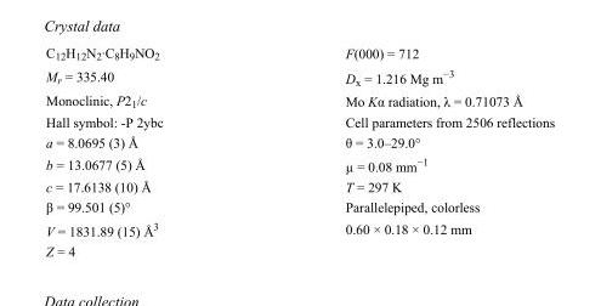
<table><tbody><tr><td>C<sub>12</sub>H<sub>12</sub>N<sub>2</sub>·C<sub>8</sub>H<sub>9</sub>NO<sub>2</sub></td><td>F(000) = 712</td></tr><tr><td>M<sub>r</sub> = 335.40</td><td>D<sub>x</sub> = 1.216 Mg m<sup>−3</sup></td></tr><tr><td>Monoclinic, P2<sub>1</sub>/c</td><td>Mo Kα radiation, λ = 0.71073 Å</td></tr><tr><td>Hall symbol: -P 2ybc</td><td>Cell parameters from 2506 reflections</td></tr><tr><td>a = 8.0695 (3) Å</td><td>θ = 3.0–29.0°</td></tr><tr><td>b = 13.0677 (5) Å</td><td>µ = 0.08 mm<sup>−1</sup></td></tr><tr><td>c = 17.6138 (10) Å</td><td>T = 297 K</td></tr><tr><td>β = 99.501 (5)°</td><td>Parallelepiped, colorless</td></tr><tr><td>V = 1831.89 (15) Å<sup>3</sup></td><td>0.60 × 0.18 × 0.12 mm</td></tr><tr><td>Z = 4</td><td></td></tr></tbody></table>